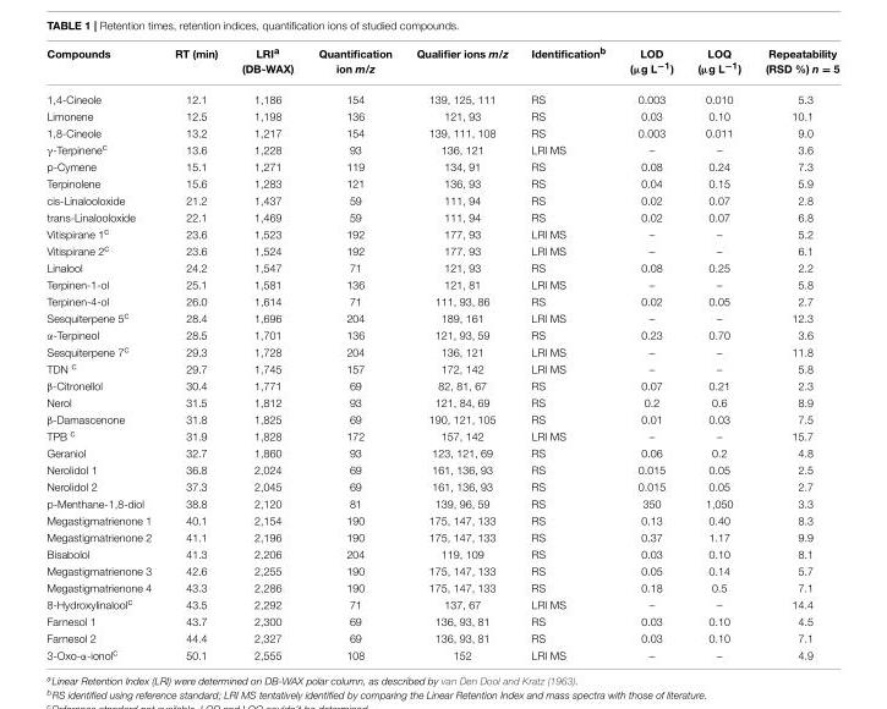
<table><thead><tr><td>Compounds</td><td>RT (min)</td><td>LRI<sup>a</sup> (DB-WAX)</td><td>Quantification ion m/z</td><td>Qualifier ions m/z</td><td>Identification<sup>b</sup></td><td>LOD (µg L<sup>−1</sup>)</td><td>LOQ (µg L<sup>−1</sup>)</td><td>Repeatability (RSD %) n = 5</td></tr></thead><tbody><tr><td>1,4-Cineole</td><td>12.1</td><td>1,186</td><td>154</td><td>139, 125, 111</td><td>RS</td><td>0.003</td><td>0.010</td><td>5.3</td></tr><tr><td>Limonene</td><td>12.5</td><td>1,198</td><td>136</td><td>121, 93</td><td>RS</td><td>0.03</td><td>0.10</td><td>10.1</td></tr><tr><td>1,8-Cineole</td><td>13.2</td><td>1,217</td><td>154</td><td>139, 111, 108</td><td>RS</td><td>0.003</td><td>0.011</td><td>9.0</td></tr><tr><td>γ-Terpinene<sup>c</sup></td><td>13.6</td><td>1,228</td><td>93</td><td>136, 121</td><td>LRI MS</td><td>–</td><td>–</td><td>3.6</td></tr><tr><td>p-Cymene</td><td>15.1</td><td>1,271</td><td>119</td><td>134, 91</td><td>RS</td><td>0.08</td><td>0.24</td><td>7.3</td></tr><tr><td>Terpinolene</td><td>15.6</td><td>1,283</td><td>121</td><td>136, 93</td><td>RS</td><td>0.04</td><td>0.15</td><td>5.9</td></tr><tr><td>cis-Linalooloxide</td><td>21.2</td><td>1,437</td><td>59</td><td>111, 94</td><td>RS</td><td>0.02</td><td>0.07</td><td>2.8</td></tr><tr><td>trans-Linalooloxide</td><td>22.1</td><td>1,469</td><td>59</td><td>111, 94</td><td>RS</td><td>0.02</td><td>0.07</td><td>6.8</td></tr><tr><td>Vitispirane 1<sup>c</sup></td><td>23.6</td><td>1,523</td><td>192</td><td>177, 93</td><td>LRI MS</td><td>–</td><td>–</td><td>5.2</td></tr><tr><td>Vitispirane 2<sup>c</sup></td><td>23.6</td><td>1,524</td><td>192</td><td>177. 93</td><td>LRI MS</td><td>–</td><td>–</td><td>6.1</td></tr><tr><td>Linalool</td><td>24.2</td><td>1,547</td><td>71</td><td>121, 93</td><td>RS</td><td>0.08</td><td>0.25</td><td>2.2</td></tr><tr><td>Terpinen-1-ol</td><td>25.1</td><td>1,581</td><td>136</td><td>121, 81</td><td>LRI MS</td><td>–</td><td>–</td><td>5.8</td></tr><tr><td>Terpinen-4-ol</td><td>26.0</td><td>1,614</td><td>71</td><td>111, 93, 86</td><td>RS</td><td>0.02</td><td>0.05</td><td>2.7</td></tr><tr><td>Sesquiterpene 5<sup>c</sup></td><td>28.4</td><td>1,696</td><td>204</td><td>189, 161</td><td>LRI MS</td><td>–</td><td>–</td><td>12.3</td></tr><tr><td>α-Terpineol</td><td>28.5</td><td>1,701</td><td>136</td><td>121, 93, 59</td><td>RS</td><td>0.23</td><td>0.70</td><td>3.6</td></tr><tr><td>Sesquiterpene 7<sup>c</sup></td><td>29.3</td><td>1,728</td><td>204</td><td>136, 121</td><td>LRI MS</td><td>–</td><td>–</td><td>11.8</td></tr><tr><td>TDN <sup>c</sup></td><td>29.7</td><td>1,745</td><td>157</td><td>172, 142</td><td>LRI MS</td><td>–</td><td>–</td><td>5.8</td></tr><tr><td>β-Citronellol</td><td>30.4</td><td>1,771</td><td>69</td><td>82, 81, 67</td><td>RS</td><td>0.07</td><td>0.21</td><td>2.3</td></tr><tr><td>Nerol</td><td>31.5</td><td>1,812</td><td>93</td><td>121, 84, 69</td><td>RS</td><td>0.2</td><td>0.6</td><td>8.9</td></tr><tr><td>β-Damascenone</td><td>31.8</td><td>1,825</td><td>69</td><td>190, 121, 105</td><td>RS</td><td>0.01</td><td>0.03</td><td>7.5</td></tr><tr><td>TPB <sup>c</sup></td><td>31.9</td><td>1,828</td><td>172</td><td>157, 142</td><td>LRI MS</td><td>–</td><td>–</td><td>15.7</td></tr><tr><td>Geraniol</td><td>32.7</td><td>1,860</td><td>93</td><td>123, 121, 69</td><td>RS</td><td>0.06</td><td>0.2</td><td>4.8</td></tr><tr><td>Nerolidol 1</td><td>36.8</td><td>2,024</td><td>69</td><td>161, 136, 93</td><td>RS</td><td>0.015</td><td>0.05</td><td>2.5</td></tr><tr><td>Nerolidol 2</td><td>37.3</td><td>2,045</td><td>69</td><td>161, 136, 93</td><td>RS</td><td>0.015</td><td>0.05</td><td>2.7</td></tr><tr><td>p-Menthane-1,8-diol</td><td>38.8</td><td>2,120</td><td>81</td><td>139, 96, 59</td><td>RS</td><td>350</td><td>1,050</td><td>3.3</td></tr><tr><td>Megastigmatrienone 1</td><td>40.1</td><td>2,154</td><td>190</td><td>175, 147, 133</td><td>RS</td><td>0.13</td><td>0.40</td><td>8.3</td></tr><tr><td>Megastigmatrienone 2</td><td>41.1</td><td>2,196</td><td>190</td><td>175, 147, 133</td><td>RS</td><td>0.37</td><td>1.17</td><td>9.9</td></tr><tr><td>Bisabolol</td><td>41.3</td><td>2,206</td><td>204</td><td>119, 109</td><td>RS</td><td>0.03</td><td>0.10</td><td>8.1</td></tr><tr><td>Megastigmatrienone 3</td><td>42.6</td><td>2,255</td><td>190</td><td>175, 147, 133</td><td>RS</td><td>0.05</td><td>0.14</td><td>5.7</td></tr><tr><td>Megastigmatrienone 4</td><td>43.3</td><td>2,286</td><td>190</td><td>175, 147, 133</td><td>RS</td><td>0.18</td><td>0.5</td><td>7.1</td></tr><tr><td>8-Hydroxylinalool<sup>c</sup></td><td>43.5</td><td>2,292</td><td>71</td><td>137, 67</td><td>LRI MS</td><td>–</td><td>–</td><td>14.4</td></tr><tr><td>Farnesol 1</td><td>43.7</td><td>2,300</td><td>69</td><td>136, 93, 81</td><td>RS</td><td>0.03</td><td>0.10</td><td>4.5</td></tr><tr><td>Farnesol 2</td><td>44.4</td><td>2,327</td><td>69</td><td>136, 93, 81</td><td>RS</td><td>0.03</td><td>0.10</td><td>7.1</td></tr><tr><td>3-Oxo-α-ionol<sup>c</sup></td><td>50.1</td><td>2,555</td><td>108</td><td>152</td><td>LRI MS</td><td>–</td><td>–</td><td>4.9</td></tr></tbody></table>